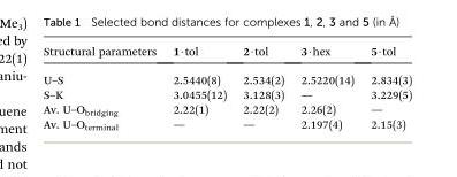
<table><thead><tr><td>Structural parameters</td><td>1·tol</td><td>2·tol</td><td>3·hex</td><td>5·tol</td></tr></thead><tbody><tr><td>U–S</td><td>2.5440(8)</td><td>2.534(2)</td><td>2.5220(14)</td><td>2.834(3)</td></tr><tr><td>S–K</td><td>3.0455(12)</td><td>3.128(3)</td><td>—</td><td>3.229(5)</td></tr><tr><td>Av. U–O<sub>bridging</sub></td><td>2.22(1)</td><td>2.22(2)</td><td>2.26(2)</td><td>—</td></tr><tr><td>Av. U–O<sub>terminal</sub></td><td>—</td><td>—</td><td>2.197(4)</td><td>2.15(3)</td></tr></tbody></table>